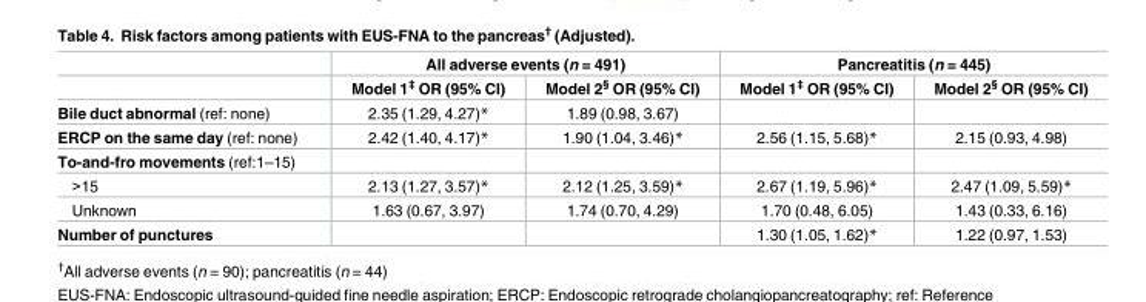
<table><thead><tr><td rowspan="2"></td><td colspan="2">All adverse events (n = 491)</td><td colspan="2">Pancreatitis (n = 445)</td></tr><tr><td>Model 1<sup>‡</sup> OR (95% CI)</td><td>Model 2<sup>§</sup> OR (95% CI)</td><td>Model 1<sup>‡</sup> OR (95% CI)</td><td>Model 2<sup>§</sup> OR (95% CI)</td></tr></thead><tbody><tr><td>Bile duct abnormal (ref: none)</td><td>2.35 (1.29, 4.27)*</td><td>1.89 (0.98, 3.67)</td><td></td><td></td></tr><tr><td>ERCP on the same day (ref: none)</td><td>2.42 (1.40, 4.17)*</td><td>1.90 (1.04, 3.46)*</td><td>2.56 (1.15, 5.68)*</td><td>2.15 (0.93, 4.98)</td></tr><tr><td colspan="5">To-and-fro movements (ref:1–15)</td></tr><tr><td>&gt;15</td><td>2.13 (1.27, 3.57)*</td><td>2.12 (1.25, 3.59)*</td><td>2.67 (1.19, 5.96)*</td><td>2.47 (1.09, 5.59)*</td></tr><tr><td>Unknown</td><td>1.63 (0.67, 3.97)</td><td>1.74 (0.70, 4.29)</td><td>1.70 (0.48, 6.05)</td><td>1.43 (0.33, 6.16)</td></tr><tr><td>Number of punctures</td><td></td><td></td><td>1.30 (1.05, 1.62)*</td><td>1.22 (0.97, 1.53)</td></tr></tbody></table>